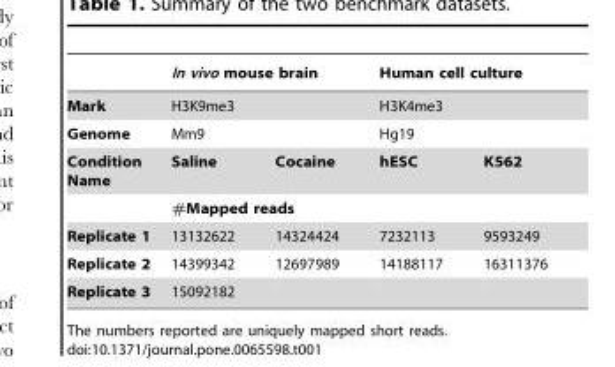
<table><thead><tr><td rowspan="4">Mark Genome Condition Name</td><td rowspan="3" colspan="2">In vivo mouse brain H3K9me3 Mm9</td><td rowspan="3" colspan="2">Human cell culture H3K4me3 Hg19</td></tr><tr></tr><tr></tr><tr><td>Saline</td><td>Cocaine</td><td>hESC</td><td>K562</td></tr></thead><tbody><tr><td></td><td colspan="4">#Mapped reads</td></tr><tr><td>Replicate 1</td><td>13132622</td><td>14324424</td><td>7232113</td><td>9593249</td></tr><tr><td>Replicate 2</td><td>14399342</td><td>12697989</td><td>14188117</td><td>16311376</td></tr><tr><td>Replicate 3</td><td>15092182</td><td></td><td></td><td></td></tr></tbody></table>